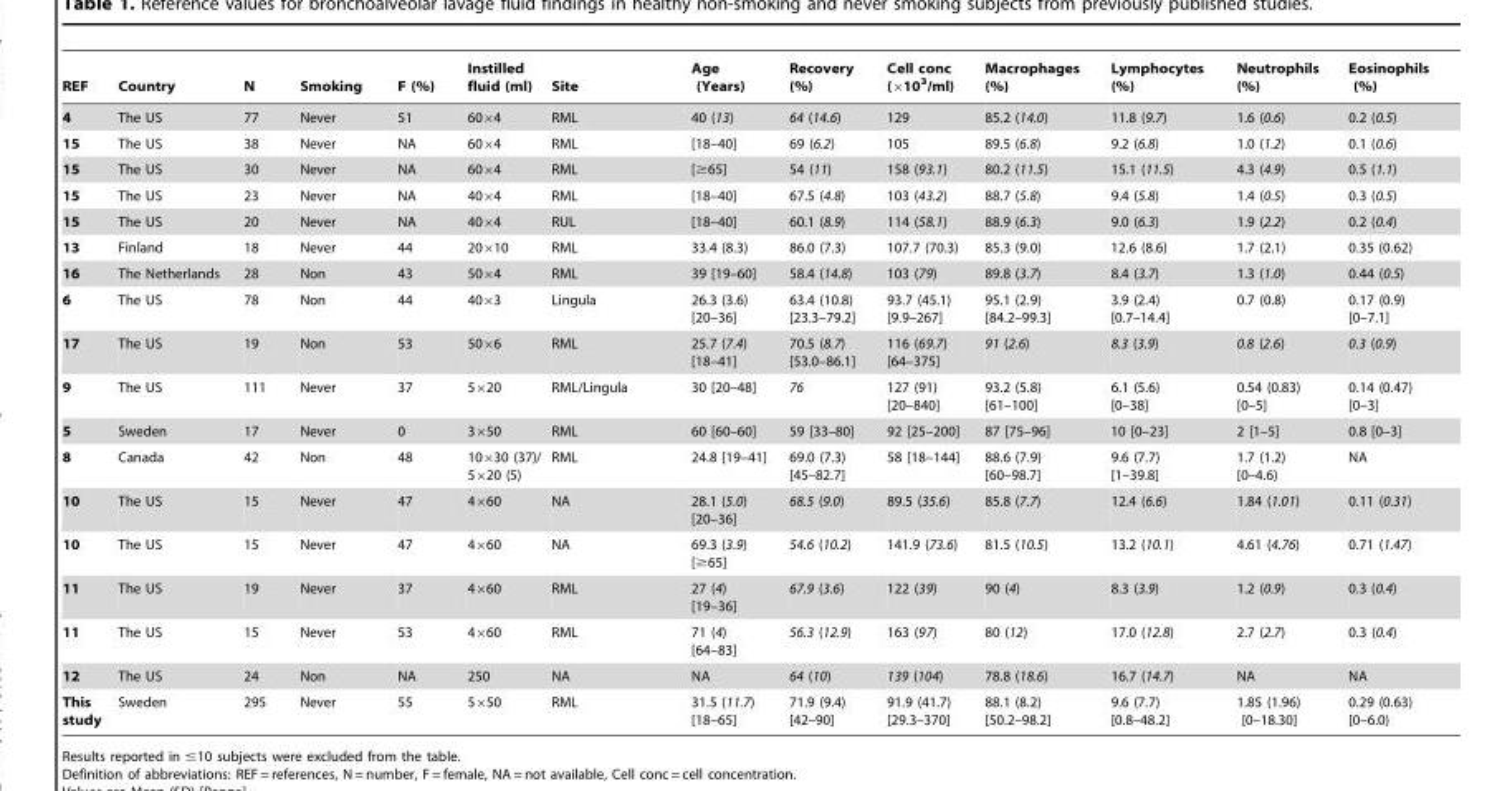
<table><thead><tr><td>REF</td><td>Country</td><td>N</td><td>Smoking</td><td>F (%)</td><td>Instilled fluid (ml)</td><td>Site</td><td>Age (Years)</td><td>Recovery (%)</td><td>Cell conc (×10<sup>3</sup>/ml)</td><td>Macrophages (%)</td><td>Lymphocytes (%)</td><td>Neutrophils (%)</td><td>Eosinophils (%)</td></tr></thead><tbody><tr><td>4</td><td>The US</td><td>77</td><td>Never</td><td>51</td><td>60×4</td><td>RML</td><td>40 (13)</td><td>64 (14.6)</td><td>129</td><td>85.2 (14.0)</td><td>11.8 (9.7)</td><td>1.6 (0.6)</td><td>0.2 (0.5)</td></tr><tr><td>15</td><td>The US</td><td>38</td><td>Never</td><td>NA</td><td>60×4</td><td>RML</td><td>[18–40]</td><td>69 (6.2)</td><td>105</td><td>89.5 (6.8)</td><td>9.2 (6.8)</td><td>1.0 (1.2)</td><td>0.1 (0.6)</td></tr><tr><td>15</td><td>The US</td><td>30</td><td>Never</td><td>NA</td><td>60×4</td><td>RML</td><td>[≥65]</td><td>54 (11)</td><td>158 (93.1)</td><td>80.2 (11.5)</td><td>15.1 (11.5)</td><td>4.3 (4.9)</td><td>0.5 (1.1)</td></tr><tr><td>15</td><td>The US</td><td>23</td><td>Never</td><td>NA</td><td>40×4</td><td>RML</td><td>[18–40]</td><td>67.5 (4.8)</td><td>103 (43.2)</td><td>88.7 (5.8)</td><td>9.4 (5.8)</td><td>1.4 (0.5)</td><td>0.3 (0.5)</td></tr><tr><td>15</td><td>The US</td><td>20</td><td>Never</td><td>NA</td><td>40×4</td><td>RUL</td><td>[18–40]</td><td>60.1 (8.9)</td><td>114 (58.1)</td><td>88.9 (6.3)</td><td>9.0 (6.3)</td><td>1.9 (2.2)</td><td>0.2 (0.4)</td></tr><tr><td>13</td><td>Finland</td><td>18</td><td>Never</td><td>44</td><td>20×10</td><td>RML</td><td>33.4 (8.3)</td><td>86.0 (7.3)</td><td>107.7 (70.3)</td><td>85.3 (9.0)</td><td>12.6 (8.6)</td><td>1.7 (2.1)</td><td>0.35 (0.62)</td></tr><tr><td>16</td><td>The Netherlands</td><td>28</td><td>Non</td><td>43</td><td>50×4</td><td>RML</td><td>39 [19–60]</td><td>58.4 (14.8)</td><td>103 (79)</td><td>89.8 (3.7)</td><td>8.4 (3.7)</td><td>1.3 (1.0)</td><td>0.44 (0.5)</td></tr><tr><td>6</td><td>The US</td><td>78</td><td>Non</td><td>44</td><td>40×3</td><td>Lingula</td><td>26.3 (3.6) [20–36]</td><td>63.4 (10.8) [23.3–79.2]</td><td>93.7 (45.1) [9.9–267]</td><td>95.1 (2.9) [84.2–99.3]</td><td>3.9 (2.4) [0.7–14.4]</td><td>0.7 (0.8)</td><td>0.17 (0.9) [0–7.1]</td></tr><tr><td>17</td><td>The US</td><td>19</td><td>Non</td><td>53</td><td>50×6</td><td>RML</td><td>25.7 (7.4) [18–41]</td><td>70.5 (8.7) [53.0–86.1]</td><td>116 (69.7) [64–375]</td><td>91 (2.6)</td><td>8.3 (3.9)</td><td>0.8 (2.6)</td><td>0.3 (0.9)</td></tr><tr><td>9</td><td>The US</td><td>111</td><td>Never</td><td>37</td><td>5×20</td><td>RML/Lingula</td><td>30 [20–48]</td><td>76</td><td>127 (91) [20–840]</td><td>93.2 (5.8) [61–100]</td><td>6.1 (5.6) [0–38]</td><td>0.54 (0.83) [0–5]</td><td>0.14 (0.47) [0–3]</td></tr><tr><td>5</td><td>Sweden</td><td>17</td><td>Never</td><td>0</td><td>3×50</td><td>RML</td><td>60 [60–60]</td><td>59 [33–80]</td><td>92 [25–200]</td><td>87 [75–96]</td><td>10 [0–23]</td><td>2 [1–5]</td><td>0.8 [0–3]</td></tr><tr><td>8</td><td>Canada</td><td>42</td><td>Non</td><td>48</td><td>10×30 (37)/ 5×20 (5)</td><td>RML</td><td>24.8 [19–41]</td><td>69.0 (7.3) [45–82.7]</td><td>58 [18–144]</td><td>88.6 (7.9) [60–98.7]</td><td>9.6 (7.7) [1–39.8]</td><td>1.7 (1.2) [0–4.6)</td><td>NA</td></tr><tr><td>10</td><td>The US</td><td>15</td><td>Never</td><td>47</td><td>4×60</td><td>NA</td><td>28.1 (5.0) [20–36]</td><td>68.5 (9.0)</td><td>89.5 (35.6)</td><td>85.8 (7.7)</td><td>12.4 (6.6)</td><td>1.84 (1.01)</td><td>0.11 (0.31)</td></tr><tr><td>10</td><td>The US</td><td>15</td><td>Never</td><td>47</td><td>4×60</td><td>NA</td><td>69.3 (3.9) [≥65]</td><td>54.6 (10.2)</td><td>141.9 (73.6)</td><td>81.5 (10.5)</td><td>13.2 (10.1)</td><td>4.61 (4.76)</td><td>0.71 (1.47)</td></tr><tr><td>11</td><td>The US</td><td>19</td><td>Never</td><td>37</td><td>4×60</td><td>RML</td><td>27 (4) [19–36]</td><td>67.9 (3.6)</td><td>122 (39)</td><td>90 (4)</td><td>8.3 (3.9)</td><td>1.2 (0.9)</td><td>0.3 (0.4)</td></tr><tr><td>11</td><td>The US</td><td>15</td><td>Never</td><td>53</td><td>4×60</td><td>RML</td><td>71 (4) [64–83]</td><td>56.3 (12.9)</td><td>163 (97)</td><td>80 (12)</td><td>17.0 (12.8)</td><td>2.7 (2.7)</td><td>0.3 (0.4)</td></tr><tr><td>12</td><td>The US</td><td>24</td><td>Non</td><td>NA</td><td>250</td><td>NA</td><td>NA</td><td>64 (10)</td><td>139 (104)</td><td>78.8 (18.6)</td><td>16.7 (14.7)</td><td>NA</td><td>NA</td></tr><tr><td>This study</td><td>Sweden</td><td>295</td><td>Never</td><td>55</td><td>5×50</td><td>RML</td><td>31.5 (11.7) [18–65]</td><td>71.9 (9.4) [42–90]</td><td>91.9 (41.7) [29.3–370]</td><td>88.1 (8.2) [50.2–98.2]</td><td>9.6 (7.7) [0.8–48.2]</td><td>1.85 (1.96) [0–18.30]</td><td>0.29 (0.63) [0–6.0)</td></tr></tbody></table>